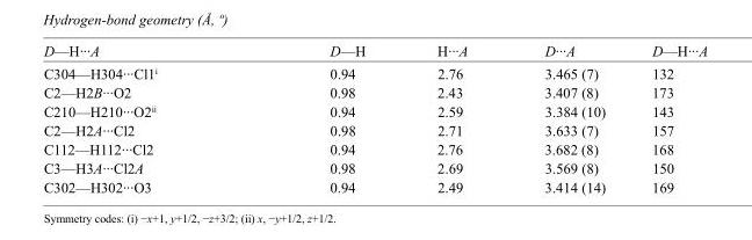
<table><tbody><tr><td>D—H···A</td><td>D—H</td><td>H···A</td><td>D···A</td><td>D—H···A</td></tr><tr><td>C304—H304···Cl1<sup>i</sup></td><td>0.94</td><td>2.76</td><td>3.465 (7)</td><td>132</td></tr><tr><td>C2—H2B···O2</td><td>0.98</td><td>2.43</td><td>3.407 (8)</td><td>173</td></tr><tr><td>C210—H210···O2<sup>ii</sup></td><td>0.94</td><td>2.59</td><td>3.384 (10)</td><td>143</td></tr><tr><td>C2—H2A···Cl2</td><td>0.98</td><td>2.71</td><td>3.633 (7)</td><td>157</td></tr><tr><td>C112—H112···Cl2</td><td>0.94</td><td>2.76</td><td>3.682 (8)</td><td>168</td></tr><tr><td>C3—H3A···Cl2A</td><td>0.98</td><td>2.69</td><td>3.569 (8)</td><td>150</td></tr><tr><td>C302—H302···O3</td><td>0.94</td><td>2.49</td><td>3.414 (14)</td><td>169</td></tr></tbody></table>